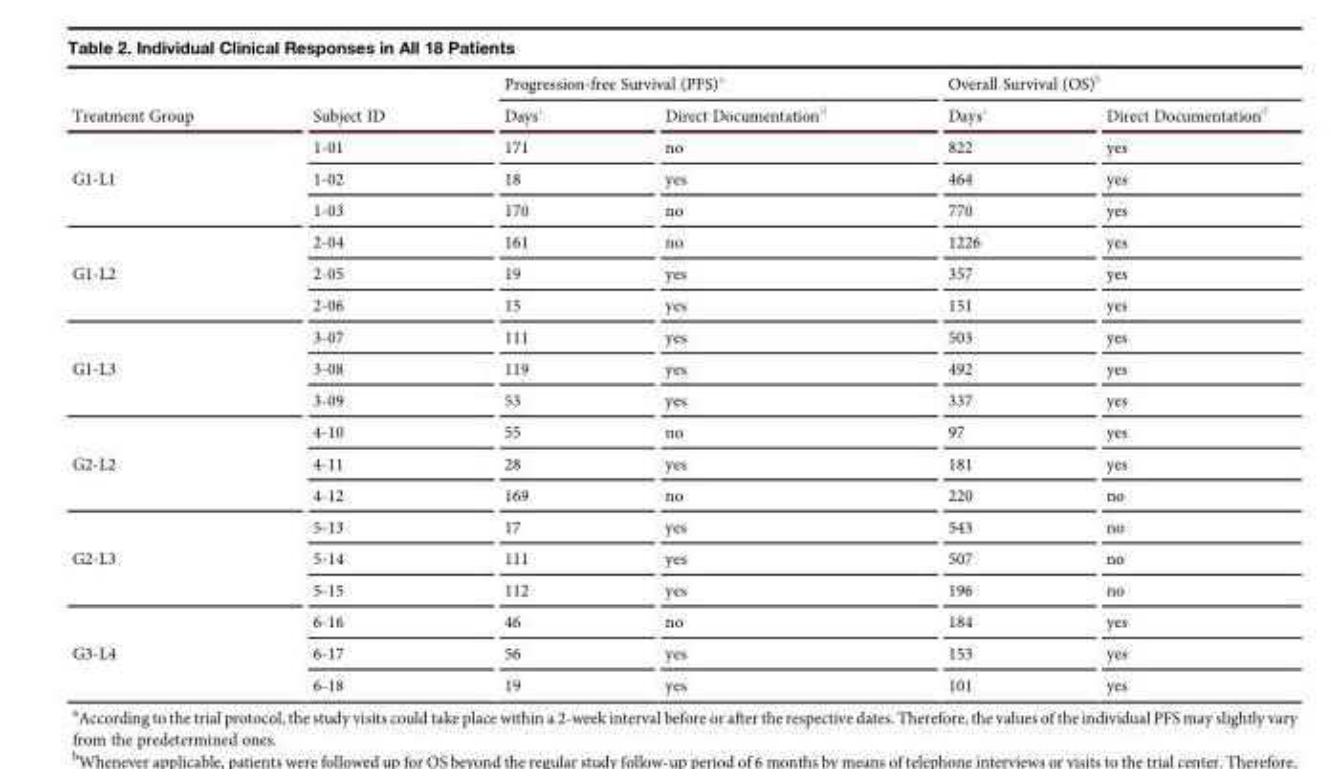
<table><thead><tr><td rowspan="2">Treatment Group</td><td rowspan="2">Subject ID</td><td colspan="2">Progression-free Survival (PFS)<sup>a</sup></td><td colspan="2">Overall Survival (OS)<sup>b</sup></td></tr><tr><td>Days<sup>c</sup></td><td>Direct Documentation<sup>d</sup></td><td>Days<sup>c</sup></td><td>Direct Documentation<sup>d</sup></td></tr></thead><tbody><tr><td rowspan="3">G1-L1</td><td>1-01</td><td>171</td><td>no</td><td>822</td><td>yes</td></tr><tr><td>1-02</td><td>18</td><td>yes</td><td>464</td><td>yes</td></tr><tr><td>1-03</td><td>170</td><td>no</td><td>770</td><td>yes</td></tr><tr><td rowspan="3">G1-L2</td><td>2-04</td><td>161</td><td>no</td><td>1226</td><td>yes</td></tr><tr><td>2-05</td><td>19</td><td>yes</td><td>357</td><td>yes</td></tr><tr><td>2-06</td><td>15</td><td>yes</td><td>151</td><td>yes</td></tr><tr><td rowspan="3">G1-L3</td><td>3-07</td><td>111</td><td>yes</td><td>503</td><td>yes</td></tr><tr><td>3-08</td><td>119</td><td>yes</td><td>492</td><td>yes</td></tr><tr><td>3-09</td><td>53</td><td>yes</td><td>337</td><td>yes</td></tr><tr><td rowspan="3">G2-L2</td><td>4-10</td><td>55</td><td>no</td><td>97</td><td>yes</td></tr><tr><td>4-11</td><td>28</td><td>yes</td><td>181</td><td>yes</td></tr><tr><td>4-12</td><td>169</td><td>no</td><td>220</td><td>no</td></tr><tr><td rowspan="3">G2-L3</td><td>5-13</td><td>17</td><td>yes</td><td>543</td><td>no</td></tr><tr><td>5-14</td><td>111</td><td>yes</td><td>507</td><td>no</td></tr><tr><td>5-15</td><td>112</td><td>yes</td><td>196</td><td>no</td></tr><tr><td rowspan="3">G3-L4</td><td>6-16</td><td>46</td><td>no</td><td>184</td><td>yes</td></tr><tr><td>6-17</td><td>56</td><td>yes</td><td>153</td><td>yes</td></tr><tr><td>6-18</td><td>19</td><td>yes</td><td>101</td><td>yes</td></tr></tbody></table>